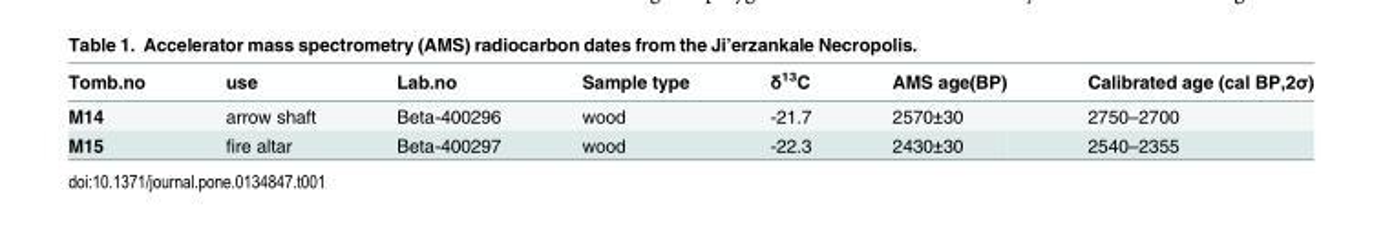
<table><thead><tr><td>Tomb.no</td><td>use</td><td>Lab.no</td><td>Sample type</td><td>δ<sup>13</sup>C</td><td>AMS age(BP)</td><td>Calibrated age (cal BP,2σ)</td></tr></thead><tbody><tr><td>M14</td><td>arrow shaft</td><td>Beta-400296</td><td>wood</td><td>-21.7</td><td>2570±30</td><td>2750–2700</td></tr><tr><td>M15</td><td>fire altar</td><td>Beta-400297</td><td>wood</td><td>-22.3</td><td>2430±30</td><td>2540–2355</td></tr></tbody></table>